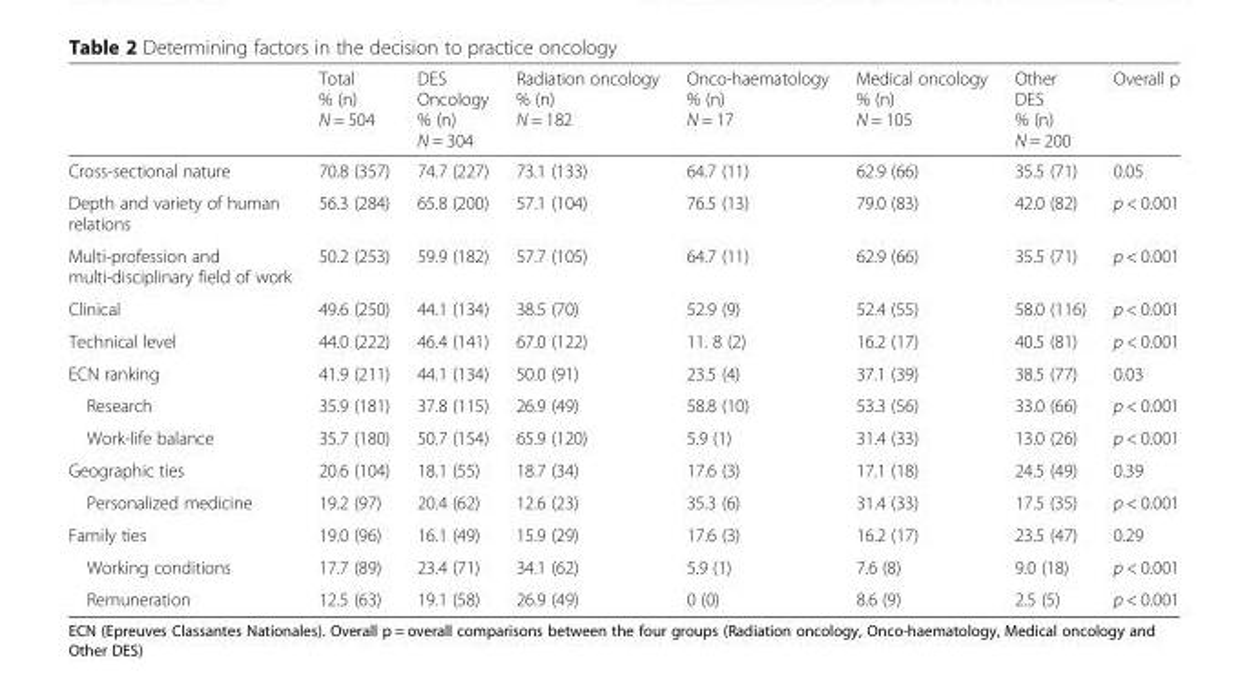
<table><thead><tr><td></td><td>Total % (n) N = 504</td><td>DES Oncology % (n) N = 304</td><td>Radiation oncology % (n) N = 182</td><td>Onco-haematology % (n) N = 17</td><td>Medical oncology % (n) N = 105</td><td>Other DES % (n) N = 200</td><td>Overall p</td></tr></thead><tbody><tr><td>Cross-sectional nature</td><td>70.8 (357)</td><td>74.7 (227)</td><td>73.1 (133)</td><td>64.7 (11)</td><td>62.9 (66)</td><td>35.5 (71)</td><td>0.05</td></tr><tr><td>Depth and variety of human relations</td><td>56.3 (284)</td><td>65.8 (200)</td><td>57.1 (104)</td><td>76.5 (13)</td><td>79.0 (83)</td><td>42.0 (82)</td><td>p &lt; 0.001</td></tr><tr><td>Multi-profession and multi-disciplinary field of work</td><td>50.2 (253)</td><td>59.9 (182)</td><td>57.7 (105)</td><td>64.7 (11)</td><td>62.9 (66)</td><td>35.5 (71)</td><td>p &lt; 0.001</td></tr><tr><td>Clinical</td><td>49.6 (250)</td><td>44.1 (134)</td><td>38.5 (70)</td><td>52.9 (9)</td><td>52.4 (55)</td><td>58.0 (116)</td><td>p &lt; 0.001</td></tr><tr><td>Technical level</td><td>44.0 (222)</td><td>46.4 (141)</td><td>67.0 (122)</td><td>11. 8 (2)</td><td>16.2 (17)</td><td>40.5 (81)</td><td>p &lt; 0.001</td></tr><tr><td>ECN ranking</td><td>41.9 (211)</td><td>44.1 (134)</td><td>50.0 (91)</td><td>23.5 (4)</td><td>37.1 (39)</td><td>38.5 (77)</td><td>0.03</td></tr><tr><td>Research</td><td>35.9 (181)</td><td>37.8 (115)</td><td>26.9 (49)</td><td>58.8 (10)</td><td>53.3 (56)</td><td>33.0 (66)</td><td>p &lt; 0.001</td></tr><tr><td>Work-life balance</td><td>35.7 (180)</td><td>50.7 (154)</td><td>65.9 (120)</td><td>5.9 (1)</td><td>31.4 (33)</td><td>13.0 (26)</td><td>p &lt; 0.001</td></tr><tr><td>Geographic ties</td><td>20.6 (104)</td><td>18.1 (55)</td><td>18.7 (34)</td><td>17.6 (3)</td><td>17.1 (18)</td><td>24.5 (49)</td><td>0.39</td></tr><tr><td>Personalized medicine</td><td>19.2 (97)</td><td>20.4 (62)</td><td>12.6 (23)</td><td>35.3 (6)</td><td>31.4 (33)</td><td>17.5 (35)</td><td>p &lt; 0.001</td></tr><tr><td>Family ties</td><td>19.0 (96)</td><td>16.1 (49)</td><td>15.9 (29)</td><td>17.6 (3)</td><td>16.2 (17)</td><td>23.5 (47)</td><td>0.29</td></tr><tr><td>Working conditions</td><td>17.7 (89)</td><td>23.4 (71)</td><td>34.1 (62)</td><td>5.9 (1)</td><td>7.6 (8)</td><td>9.0 (18)</td><td>p &lt; 0.001</td></tr><tr><td>Remuneration</td><td>12.5 (63)</td><td>19.1 (58)</td><td>26.9 (49)</td><td>0 (0)</td><td>8.6 (9)</td><td>2.5 (5)</td><td>p &lt; 0.001</td></tr></tbody></table>